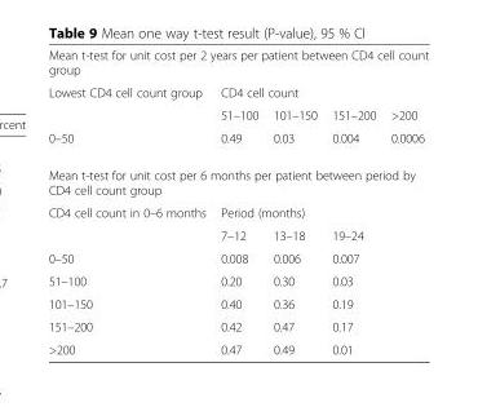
<table><tbody><tr><td colspan="5">Mean t-test for unit cost per 2 years per patient between CD4 cell count group</td></tr><tr><td rowspan="2">Lowest CD4 cell count group</td><td colspan="4">CD4 cell count</td></tr><tr><td>51–100</td><td>101–150</td><td>151–200</td><td>&gt;200</td></tr><tr><td>0–50</td><td>0.49</td><td>0.03</td><td>0.004</td><td>0.0006</td></tr><tr><td colspan="5">Mean t-test for unit cost per 6 months per patient between period by CD4 cell count group</td></tr><tr><td rowspan="2">CD4 cell count in 0–6 months</td><td colspan="4">Period (months)</td></tr><tr><td>7–12</td><td>13–18</td><td>19–24</td><td></td></tr><tr><td>0–50</td><td>0.008</td><td>0.006</td><td>0.007</td><td></td></tr><tr><td>51–100</td><td>0.20</td><td>0.30</td><td>0.03</td><td></td></tr><tr><td>101–150</td><td>0.40</td><td>0.36</td><td>0.19</td><td></td></tr><tr><td>151–200</td><td>0.42</td><td>0.47</td><td>0.17</td><td></td></tr><tr><td>&gt;200</td><td>0.47</td><td>0.49</td><td>0.01</td><td></td></tr></tbody></table>